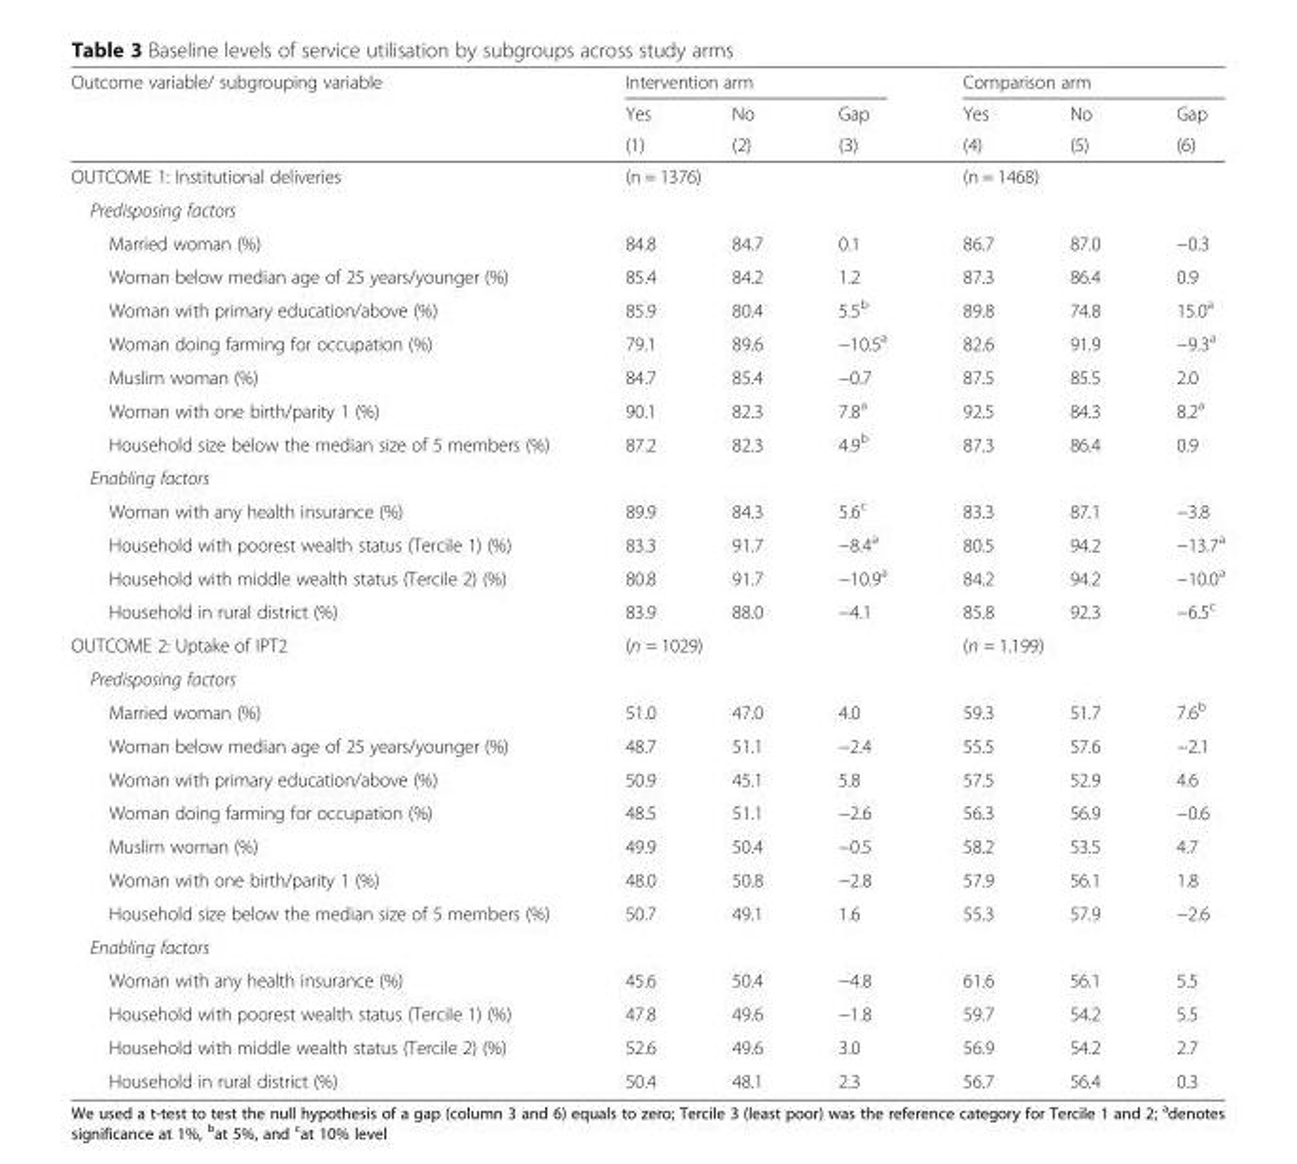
<table><thead><tr><td rowspan="3">Outcome variable/ subgrouping variable</td><td colspan="3">Intervention arm</td><td colspan="3">Comparison arm</td></tr><tr><td rowspan="2">Yes (1)</td><td rowspan="2">No (2)</td><td rowspan="2">Gap (3)</td><td rowspan="2">Yes (4)</td><td rowspan="2">No (5)</td><td rowspan="2">Gap (6)</td></tr><tr></tr></thead><tbody><tr><td>OUTCOME 1: Institutional deliveries</td><td colspan="3">(n = 1376)</td><td colspan="3">(n = 1468)</td></tr><tr><td colspan="7">Predisposing factors</td></tr><tr><td>Married woman (%)</td><td>84.8</td><td>84.7</td><td>0.1</td><td>86.7</td><td>87.0</td><td>−0.3</td></tr><tr><td>Woman below median age of 25 years/younger (%)</td><td>85.4</td><td>84.2</td><td>1.2</td><td>87.3</td><td>86.4</td><td>0.9</td></tr><tr><td>Woman with primary education/above (%)</td><td>85.9</td><td>80.4</td><td>5.5<sup>b</sup></td><td>89.8</td><td>74.8</td><td>15.0<sup>a</sup></td></tr><tr><td>Woman doing farming for occupation (%)</td><td>79.1</td><td>89.6</td><td>−10.5<sup>a</sup></td><td>82.6</td><td>91.9</td><td>−9.3<sup>a</sup></td></tr><tr><td>Muslim woman (%)</td><td>84.7</td><td>85.4</td><td>−0.7</td><td>87.5</td><td>85.5</td><td>2.0</td></tr><tr><td>Woman with one birth/parity 1 (%)</td><td>90.1</td><td>82.3</td><td>7.8<sup>a</sup></td><td>92.5</td><td>84.3</td><td>8.2<sup>a</sup></td></tr><tr><td>Household size below the median size of 5 members (%)</td><td>87.2</td><td>82.3</td><td>4.9<sup>b</sup></td><td>87.3</td><td>86.4</td><td>0.9</td></tr><tr><td colspan="7">Enabling factors</td></tr><tr><td>Woman with any health insurance (%)</td><td>89.9</td><td>84.3</td><td>5.6<sup>c</sup></td><td>83.3</td><td>87.1</td><td>−3.8</td></tr><tr><td>Household with poorest wealth status (Tercile 1) (%)</td><td>83.3</td><td>91.7</td><td>−8.4<sup>a</sup></td><td>80.5</td><td>94.2</td><td>−13.7<sup>a</sup></td></tr><tr><td>Household with middle wealth status (Tercile 2) (%)</td><td>80.8</td><td>91.7</td><td>−10.9<sup>a</sup></td><td>84.2</td><td>94.2</td><td>−10.0<sup>a</sup></td></tr><tr><td>Household in rural district (%)</td><td>83.9</td><td>88.0</td><td>−4.1</td><td>85.8</td><td>92.3</td><td>−6.5<sup>c</sup></td></tr><tr><td>OUTCOME 2: Uptake of IPT2</td><td colspan="3">(n = 1029)</td><td colspan="3">(n = 1.199)</td></tr><tr><td colspan="7">Predisposing factors</td></tr><tr><td>Married woman (%)</td><td>51.0</td><td>47.0</td><td>4.0</td><td>59.3</td><td>51.7</td><td>7.6<sup>b</sup></td></tr><tr><td>Woman below median age of 25 years/younger (%)</td><td>48.7</td><td>51.1</td><td>−2.4</td><td>55.5</td><td>57.6</td><td>−2.1</td></tr><tr><td>Woman with primary education/above (%)</td><td>50.9</td><td>45.1</td><td>5.8</td><td>57.5</td><td>52.9</td><td>4.6</td></tr><tr><td>Woman doing farming for occupation (%)</td><td>48.5</td><td>51.1</td><td>−2.6</td><td>56.3</td><td>56.9</td><td>−0.6</td></tr><tr><td>Muslim woman (%)</td><td>49.9</td><td>50.4</td><td>−0.5</td><td>58.2</td><td>53.5</td><td>4.7</td></tr><tr><td>Woman with one birth/parity 1 (%)</td><td>48.0</td><td>50.8</td><td>−2.8</td><td>57.9</td><td>56.1</td><td>1.8</td></tr><tr><td>Household size below the median size of 5 members (%)</td><td>50.7</td><td>49.1</td><td>1.6</td><td>55.3</td><td>57.9</td><td>−2.6</td></tr><tr><td colspan="7">Enabling factors</td></tr><tr><td>Woman with any health insurance (%)</td><td>45.6</td><td>50.4</td><td>−4.8</td><td>61.6</td><td>56.1</td><td>5.5</td></tr><tr><td>Household with poorest wealth status (Tercile 1) (%)</td><td>47.8</td><td>49.6</td><td>−1.8</td><td>59.7</td><td>54.2</td><td>5.5</td></tr><tr><td>Household with middle wealth status (Tercile 2) (%)</td><td>52.6</td><td>49.6</td><td>3.0</td><td>56.9</td><td>54.2</td><td>2.7</td></tr><tr><td>Household in rural district (%)</td><td>50.4</td><td>48.1</td><td>2.3</td><td>56.7</td><td>56.4</td><td>0.3</td></tr></tbody></table>